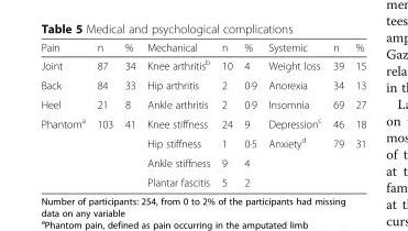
<table><thead><tr><td>Pain</td><td>n</td><td>%</td><td>Mechanical</td><td>n</td><td>%</td><td>Systemic</td><td>n</td><td>%</td></tr></thead><tbody><tr><td>Joint</td><td>87</td><td>34</td><td>Knee arthritis<sup>b</sup></td><td>10</td><td>4</td><td>Weight loss</td><td>39</td><td>15</td></tr><tr><td>Back</td><td>84</td><td>33</td><td>Hip arthritis</td><td>2</td><td>0·9</td><td>Anorexia</td><td>34</td><td>13</td></tr><tr><td>Heel</td><td>21</td><td>8</td><td>Ankle arthritis</td><td>2</td><td>0·9</td><td>Insomnia</td><td>69</td><td>27</td></tr><tr><td rowspan="4">Phantom<sup>a</sup></td><td>103</td><td>41</td><td>Knee stiffness</td><td>24</td><td>9</td><td>Depression<sup>c</sup></td><td>46</td><td>18</td></tr><tr><td></td><td></td><td>Hip stiffness</td><td>1</td><td>0·5</td><td>Anxiety<sup>d</sup></td><td>79</td><td>31</td></tr><tr><td></td><td></td><td>Ankle stiffness</td><td>9</td><td>4</td><td></td><td></td><td></td></tr><tr><td></td><td></td><td>Plantar fascitis</td><td>5</td><td>2</td><td></td><td></td><td></td></tr></tbody></table>